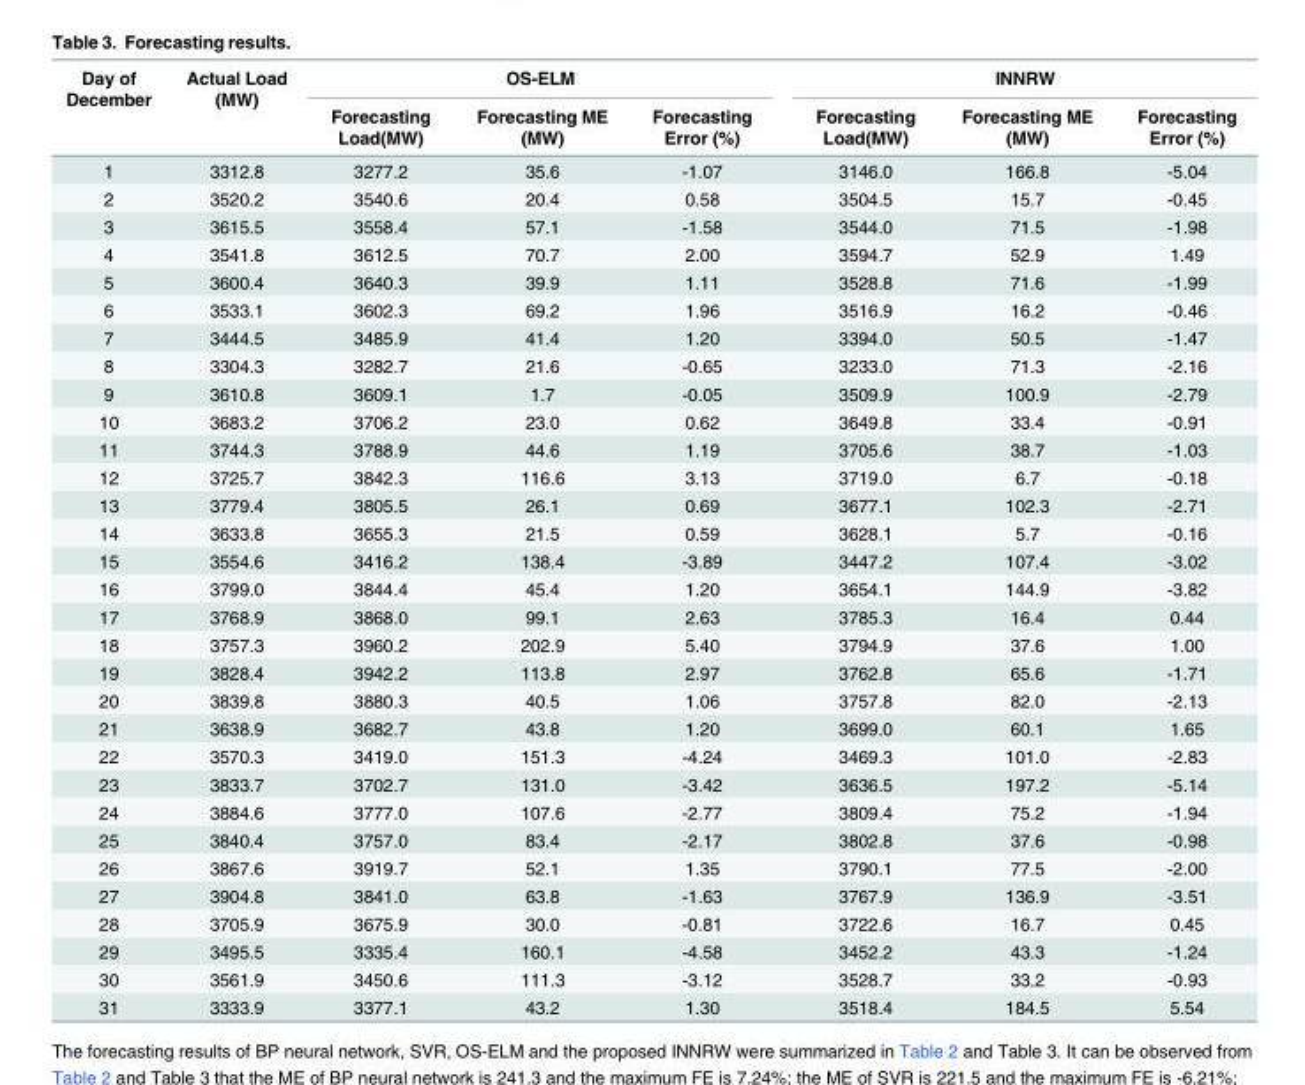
<table><thead><tr><td rowspan="2">Day of December</td><td rowspan="2">Actual Load (MW)</td><td colspan="3">OS-ELM</td><td colspan="3">INNRW</td></tr><tr><td>Forecasting Load(MW)</td><td>Forecasting ME (MW)</td><td>Forecasting Error (%)</td><td>Forecasting Load(MW)</td><td>Forecasting ME (MW)</td><td>Forecasting Error (%)</td></tr></thead><tbody><tr><td>1</td><td>3312.8</td><td>3277.2</td><td>35.6</td><td>-1.07</td><td>3146.0</td><td>166.8</td><td>-5.04</td></tr><tr><td>2</td><td>3520.2</td><td>3540.6</td><td>20.4</td><td>0.58</td><td>3504.5</td><td>15.7</td><td>-0.45</td></tr><tr><td>3</td><td>3615.5</td><td>3558.4</td><td>57.1</td><td>-1.58</td><td>3544.0</td><td>71.5</td><td>-1.98</td></tr><tr><td>4</td><td>3541.8</td><td>3612.5</td><td>70.7</td><td>2.00</td><td>3594.7</td><td>52.9</td><td>1.49</td></tr><tr><td>5</td><td>3600.4</td><td>3640.3</td><td>39.9</td><td>1.11</td><td>3528.8</td><td>71.6</td><td>-1.99</td></tr><tr><td>6</td><td>3533.1</td><td>3602.3</td><td>69.2</td><td>1.96</td><td>3516.9</td><td>16.2</td><td>-0.46</td></tr><tr><td>7</td><td>3444.5</td><td>3485.9</td><td>41.4</td><td>1.20</td><td>3394.0</td><td>50.5</td><td>-1.47</td></tr><tr><td>8</td><td>3304.3</td><td>3282.7</td><td>21.6</td><td>-0.65</td><td>3233.0</td><td>71.3</td><td>-2.16</td></tr><tr><td>9</td><td>3610.8</td><td>3609.1</td><td>1.7</td><td>-0.05</td><td>3509.9</td><td>100.9</td><td>-2.79</td></tr><tr><td>10</td><td>3683.2</td><td>3706.2</td><td>23.0</td><td>0.62</td><td>3649.8</td><td>33.4</td><td>-0.91</td></tr><tr><td>11</td><td>3744.3</td><td>3788.9</td><td>44.6</td><td>1.19</td><td>3705.6</td><td>38.7</td><td>-1.03</td></tr><tr><td>12</td><td>3725.7</td><td>3842.3</td><td>116.6</td><td>3.13</td><td>3719.0</td><td>6.7</td><td>-0.18</td></tr><tr><td>13</td><td>3779.4</td><td>3805.5</td><td>26.1</td><td>0.69</td><td>3677.1</td><td>102.3</td><td>-2.71</td></tr><tr><td>14</td><td>3633.8</td><td>3655.3</td><td>21.5</td><td>0.59</td><td>3628.1</td><td>5.7</td><td>-0.16</td></tr><tr><td>15</td><td>3554.6</td><td>3416.2</td><td>138.4</td><td>-3.89</td><td>3447.2</td><td>107.4</td><td>-3.02</td></tr><tr><td>16</td><td>3799.0</td><td>3844.4</td><td>45.4</td><td>1.20</td><td>3654.1</td><td>144.9</td><td>-3.82</td></tr><tr><td>17</td><td>3768.9</td><td>3868.0</td><td>99.1</td><td>2.63</td><td>3785.3</td><td>16.4</td><td>0.44</td></tr><tr><td>18</td><td>3757.3</td><td>3960.2</td><td>202.9</td><td>5.40</td><td>3794.9</td><td>37.6</td><td>1.00</td></tr><tr><td>19</td><td>3828.4</td><td>3942.2</td><td>113.8</td><td>2.97</td><td>3762.8</td><td>65.6</td><td>-1.71</td></tr><tr><td>20</td><td>3839.8</td><td>3880.3</td><td>40.5</td><td>1.06</td><td>3757.8</td><td>82.0</td><td>-2.13</td></tr><tr><td>21</td><td>3638.9</td><td>3682.7</td><td>43.8</td><td>1.20</td><td>3699.0</td><td>60.1</td><td>1.65</td></tr><tr><td>22</td><td>3570.3</td><td>3419.0</td><td>151.3</td><td>-4.24</td><td>3469.3</td><td>101.0</td><td>-2.83</td></tr><tr><td>23</td><td>3833.7</td><td>3702.7</td><td>131.0</td><td>-3.42</td><td>3636.5</td><td>197.2</td><td>-5.14</td></tr><tr><td>24</td><td>3884.6</td><td>3777.0</td><td>107.6</td><td>-2.77</td><td>3809.4</td><td>75.2</td><td>-1.94</td></tr><tr><td>25</td><td>3840.4</td><td>3757.0</td><td>83.4</td><td>-2.17</td><td>3802.8</td><td>37.6</td><td>-0.98</td></tr><tr><td>26</td><td>3867.6</td><td>3919.7</td><td>52.1</td><td>1.35</td><td>3790.1</td><td>77.5</td><td>-2.00</td></tr><tr><td>27</td><td>3904.8</td><td>3841.0</td><td>63.8</td><td>-1.63</td><td>3767.9</td><td>136.9</td><td>-3.51</td></tr><tr><td>28</td><td>3705.9</td><td>3675.9</td><td>30.0</td><td>-0.81</td><td>3722.6</td><td>16.7</td><td>0.45</td></tr><tr><td>29</td><td>3495.5</td><td>3335.4</td><td>160.1</td><td>-4.58</td><td>3452.2</td><td>43.3</td><td>-1.24</td></tr><tr><td>30</td><td>3561.9</td><td>3450.6</td><td>111.3</td><td>-3.12</td><td>3528.7</td><td>33.2</td><td>-0.93</td></tr><tr><td>31</td><td>3333.9</td><td>3377.1</td><td>43.2</td><td>1.30</td><td>3518.4</td><td>184.5</td><td>5.54</td></tr></tbody></table>